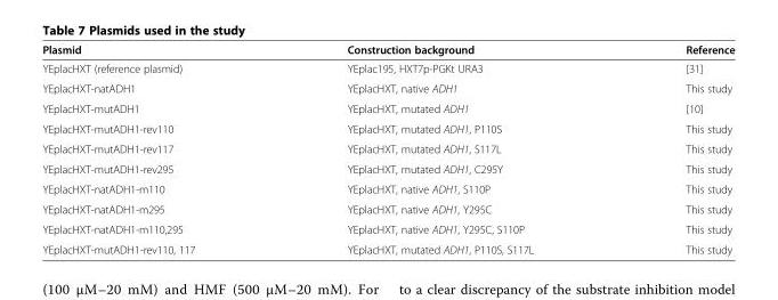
<table><thead><tr><td>Plasmid</td><td>Construction background</td><td>Reference</td></tr></thead><tbody><tr><td>YEplacHXT (reference plasmid)</td><td>YEplac195, HXT7p-PGKt URA3</td><td>[31]</td></tr><tr><td>YEplacHXT-natADH1</td><td>YEplacHXT, native ADH1</td><td>This study</td></tr><tr><td>YEplacHXT-mutADH1</td><td>YEplacHXT, mutated ADH1</td><td>[10]</td></tr><tr><td>YEplacHXT-mutADH1-rev110</td><td>YEplacHXT, mutated ADH1, P110S</td><td>This study</td></tr><tr><td>YEplacHXT-mutADH1-rev117</td><td>YEplacHXT, mutated ADH1, S117L</td><td>This study</td></tr><tr><td>YEplacHXT-mutADH1-rev295</td><td>YEplacHXT, mutated ADH1, C295Y</td><td>This study</td></tr><tr><td>YEplacHXT-natADH1-m110</td><td>YEplacHXT, native ADH1, S110P</td><td>This study</td></tr><tr><td>YEplacHXT-natADH1-m295</td><td>YEplacHXT, native ADH1, Y295C</td><td>This study</td></tr><tr><td>YEplacHXT-natADH1-m110,295</td><td>YEplacHXT, native ADH1, Y295C, S110P</td><td>This study</td></tr><tr><td>YEplacHXT-mutADH1-rev110, 117</td><td>YEplacHXT, mutated ADH1, P110S, S117L</td><td>This study</td></tr></tbody></table>